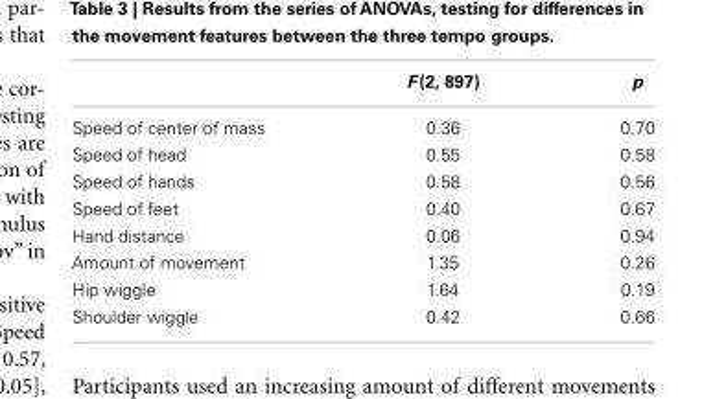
<table><thead><tr><td></td><td>F (2, 897)</td><td>p</td></tr></thead><tbody><tr><td>Speed of center of mass</td><td>0.36</td><td>0.70</td></tr><tr><td>Speed of head</td><td>0.55</td><td>0.58</td></tr><tr><td>Speed of hands</td><td>0.58</td><td>0.56</td></tr><tr><td>Speed of feet</td><td>0.40</td><td>0.67</td></tr><tr><td>Hand distance</td><td>0.06</td><td>0.94</td></tr><tr><td>Amount of movement</td><td>1.35</td><td>0.26</td></tr><tr><td>Hip wiggle</td><td>1.64</td><td>0.19</td></tr><tr><td>Shoulder wiggle</td><td>0.42</td><td>0.66</td></tr></tbody></table>